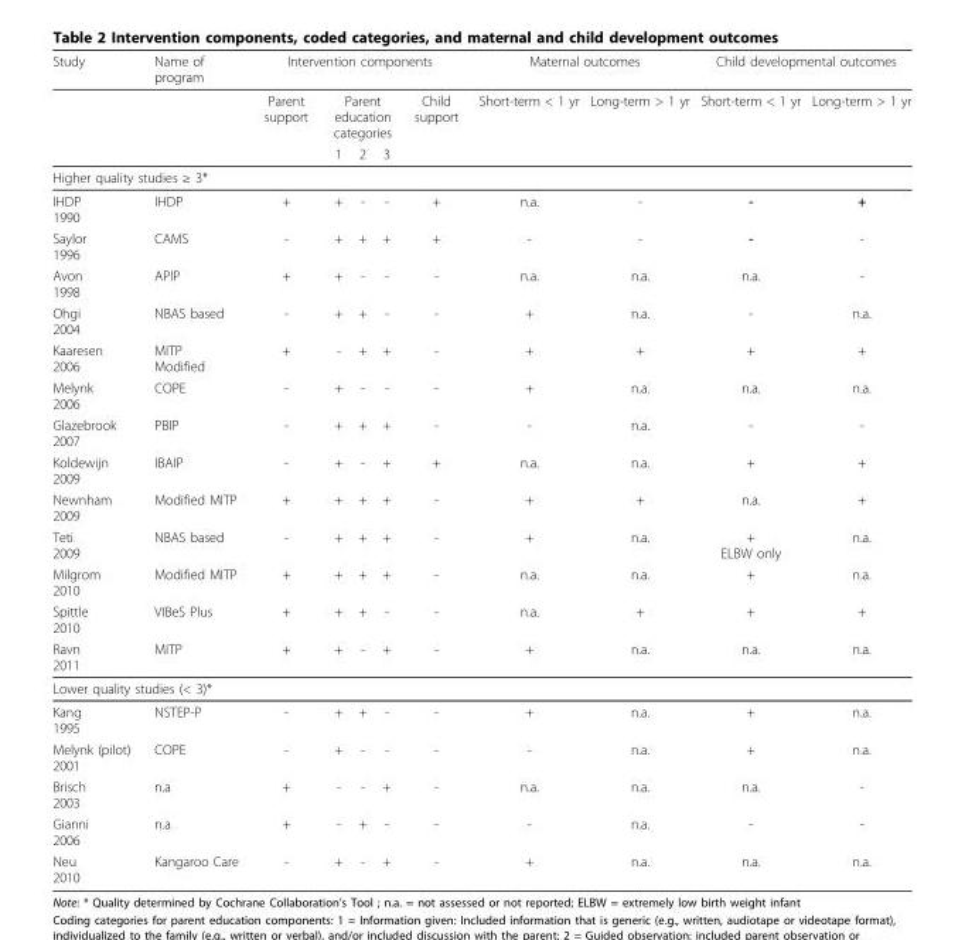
<table><thead><tr><td rowspan="3">Study</td><td rowspan="3">Name of program</td><td colspan="5">Intervention components</td><td colspan="2">Maternal outcomes</td><td colspan="2">Child developmental outcomes</td></tr><tr><td rowspan="2">Parent support</td><td colspan="3">Parent education categories</td><td rowspan="2">Child support</td><td rowspan="2">Short-term &lt; 1 yr</td><td rowspan="2">Long-term &gt; 1 yr</td><td rowspan="2">Short-term &lt; 1 yr</td><td rowspan="2">Long-term &gt; 1 yr</td></tr><tr><td>1</td><td>2</td><td>3</td></tr></thead><tbody><tr><td colspan="11">Higher quality studies ≥ 3*</td></tr><tr><td>IHDP 1990</td><td>IHDP</td><td>+</td><td>+</td><td>-</td><td>-</td><td>+</td><td>n.a.</td><td>-</td><td>-</td><td>+</td></tr><tr><td>Saylor 1996</td><td>CAMS</td><td>-</td><td>+</td><td>+</td><td>+</td><td>+</td><td>-</td><td>-</td><td>-</td><td>-</td></tr><tr><td>Avon 1998</td><td>APIP</td><td>+</td><td>+</td><td>-</td><td>-</td><td>-</td><td>n.a.</td><td>n.a.</td><td>n.a.</td><td>-</td></tr><tr><td>Ohgi 2004</td><td>NBAS based</td><td>-</td><td>+</td><td>+</td><td>-</td><td>-</td><td>+</td><td>n.a.</td><td>-</td><td>n.a.</td></tr><tr><td>Kaaresen 2006</td><td>MITP Modified</td><td>+</td><td>-</td><td>+</td><td>+</td><td>-</td><td>+</td><td>+</td><td>+</td><td>+</td></tr><tr><td>Melynk 2006</td><td>COPE</td><td>-</td><td>+</td><td>-</td><td>-</td><td>-</td><td>+</td><td>n.a.</td><td>n.a.</td><td>n.a.</td></tr><tr><td>Glazebrook 2007</td><td>PBIP</td><td>-</td><td>+</td><td>+</td><td>+</td><td>-</td><td>-</td><td>n.a.</td><td>-</td><td>-</td></tr><tr><td>Koldewijn 2009</td><td>IBAIP</td><td>-</td><td>+</td><td>-</td><td>+</td><td>+</td><td>n.a.</td><td>n.a.</td><td>+</td><td>+</td></tr><tr><td>Newnham 2009</td><td>Modified MITP</td><td>+</td><td>+</td><td>+</td><td>+</td><td>-</td><td>+</td><td>+</td><td>n.a.</td><td>+</td></tr><tr><td>Teti 2009</td><td>NBAS based</td><td>-</td><td>+</td><td>+</td><td>+</td><td>-</td><td>+</td><td>n.a.</td><td>+ ELBW only</td><td>n.a.</td></tr><tr><td>Milgrom 2010</td><td>Modified MITP</td><td>+</td><td>+</td><td>+</td><td>+</td><td>-</td><td>n.a.</td><td>n.a.</td><td>+</td><td>n.a.</td></tr><tr><td>Spittle 2010</td><td>VIBeS Plus</td><td>+</td><td>+</td><td>+</td><td>-</td><td>-</td><td>n.a.</td><td>+</td><td>+</td><td>+</td></tr><tr><td>Ravn 2011</td><td>MITP</td><td>+</td><td>+</td><td>-</td><td>+</td><td>-</td><td>+</td><td>n.a.</td><td>n.a.</td><td>n.a.</td></tr><tr><td colspan="11">Lower quality studies (&lt; 3)*</td></tr><tr><td>Kang 1995</td><td>NSTEP-P</td><td>-</td><td>+</td><td>+</td><td>-</td><td>-</td><td>+</td><td>n.a.</td><td>+</td><td>n.a.</td></tr><tr><td>Melynk (pilot) 2001</td><td>COPE</td><td>-</td><td>+</td><td>-</td><td>-</td><td>-</td><td>-</td><td>n.a.</td><td>+</td><td>n.a.</td></tr><tr><td>Brisch 2003</td><td>n.a</td><td>+</td><td>-</td><td>-</td><td>+</td><td>-</td><td>n.a.</td><td>n.a.</td><td>n.a.</td><td>-</td></tr><tr><td>Gianni 2006</td><td>n.a</td><td>+</td><td>-</td><td>+</td><td>-</td><td>-</td><td>-</td><td>n.a.</td><td>-</td><td>-</td></tr><tr><td>Neu 2010</td><td>Kangaroo Care</td><td>-</td><td>+</td><td>-</td><td>+</td><td>-</td><td>+</td><td>n.a.</td><td>n.a.</td><td>n.a.</td></tr></tbody></table>